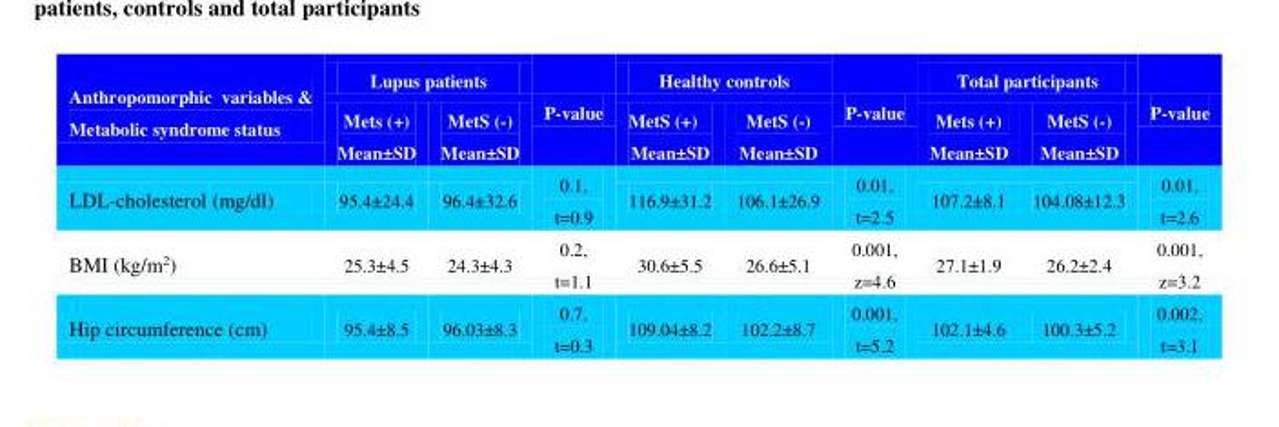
<table><thead><tr><td rowspan="2">Anthropomorphic variables &amp; Metabolic syndrome status</td><td colspan="2">Lupus patients</td><td rowspan="2">P-value</td><td colspan="2">Healthy controls</td><td rowspan="2">P-value</td><td colspan="2">Total participants</td><td rowspan="2">P-value</td></tr><tr><td>Mets (+) Mean±SD</td><td>MetS (-) Mean±SD</td><td>MetS (+) Mean±SD</td><td>MetS (-) Mean±SD</td><td>Mets (+) Mean±SD</td><td>MetS (-) Mean±SD</td></tr></thead><tbody><tr><td>LDL-cholesterol (mg/dl)</td><td>95.4±24.4</td><td>96.4±32.6</td><td>0.1, t=0.9</td><td>116.9±31.2</td><td>106.1±26.9</td><td>0.01, t=2.5</td><td>107.2±8.1</td><td>104.08±12.3</td><td>0.01, t=2.6</td></tr><tr><td>BMI (kg/m<sup>2</sup>)</td><td>25.3±4.5</td><td>24.3±4.3</td><td>0.2, t=1.1</td><td>30.6±5.5</td><td>26.6±5.1</td><td>0.001, z=4.6</td><td>27.1±1.9</td><td>26.2±2.4</td><td>0.001, z=3.2</td></tr><tr><td>Hip circumference (cm)</td><td>95.4±8.5</td><td>96.03±8.3</td><td>0.7, t=0.3</td><td>109.04±8.2</td><td>102.2±8.7</td><td>0.001, t=5.2</td><td>102.1±4.6</td><td>100.3±5.2</td><td>0.002, t=3.1</td></tr></tbody></table>